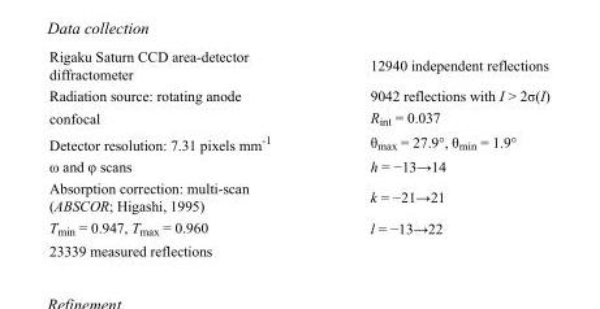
<table><tbody><tr><td>Rigaku Saturn CCD area-detector diffractometer</td><td>12940 independent reflections</td></tr><tr><td>Radiation source: rotating anode</td><td>9042 reflections with I &gt; 2σ(I)</td></tr><tr><td>confocal</td><td>R<sub>int</sub> = 0.037</td></tr><tr><td>Detector resolution: 7.31 pixels mm<sup>-1</sup></td><td>θ<sub>max</sub> = 27.9°, θ<sub>min</sub> = 1.9°</td></tr><tr><td>ω and φ scans</td><td>h = −13→14</td></tr><tr><td>Absorption correction: multi-scan (ABSCOR; Higashi, 1995)</td><td>k = −21→21</td></tr><tr><td>T<sub>min</sub> = 0.947, T<sub>max</sub> = 0.960</td><td>l = −13→22</td></tr><tr><td>23339 measured reflections</td><td></td></tr></tbody></table>